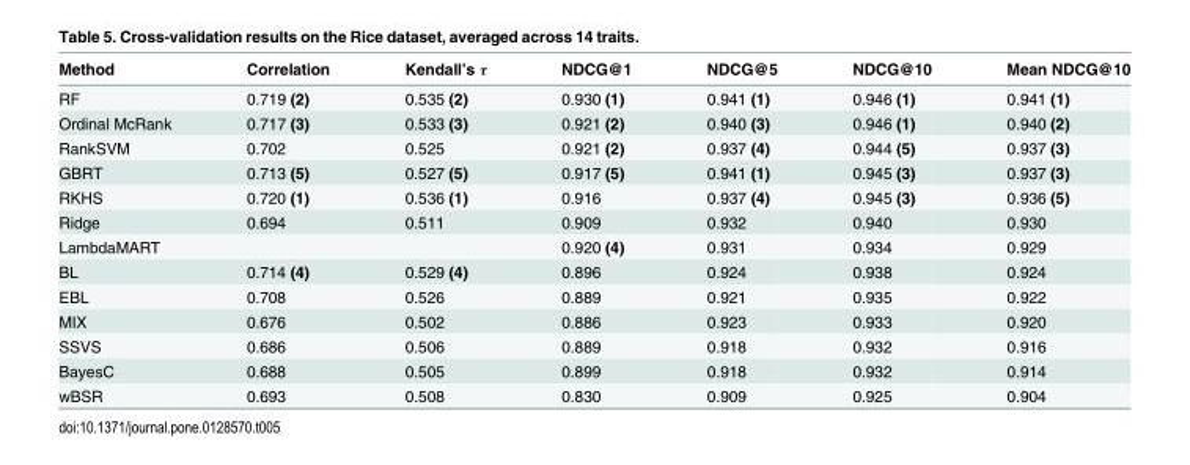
<table><thead><tr><td>Method</td><td>Correlation</td><td>Kendall’s τ</td><td>NDCG@1</td><td>NDCG@5</td><td>NDCG@10</td><td>Mean NDCG@10</td></tr></thead><tbody><tr><td>RF</td><td>0.719 (2)</td><td>0.535 (2)</td><td>0.930 (1)</td><td>0.941 (1)</td><td>0.946 (1)</td><td>0.941 (1)</td></tr><tr><td>Ordinal McRank</td><td>0.717 (3)</td><td>0.533 (3)</td><td>0.921 (2)</td><td>0.940 (3)</td><td>0.946 (1)</td><td>0.940 (2)</td></tr><tr><td>RankSVM</td><td>0.702</td><td>0.525</td><td>0.921 (2)</td><td>0.937 (4)</td><td>0.944 (5)</td><td>0.937 (3)</td></tr><tr><td>GBRT</td><td>0.713 (5)</td><td>0.527 (5)</td><td>0.917 (5)</td><td>0.941 (1)</td><td>0.945 (3)</td><td>0.937 (3)</td></tr><tr><td>RKHS</td><td>0.720 (1)</td><td>0.536 (1)</td><td>0.916</td><td>0.937 (4)</td><td>0.945 (3)</td><td>0.936 (5)</td></tr><tr><td>Ridge</td><td>0.694</td><td>0.511</td><td>0.909</td><td>0.932</td><td>0.940</td><td>0.930</td></tr><tr><td>LambdaMART</td><td></td><td></td><td>0.920 (4)</td><td>0.931</td><td>0.934</td><td>0.929</td></tr><tr><td>BL</td><td>0.714 (4)</td><td>0.529 (4)</td><td>0.896</td><td>0.924</td><td>0.938</td><td>0.924</td></tr><tr><td>EBL</td><td>0.708</td><td>0.526</td><td>0.889</td><td>0.921</td><td>0.935</td><td>0.922</td></tr><tr><td>MIX</td><td>0.676</td><td>0.502</td><td>0.886</td><td>0.923</td><td>0.933</td><td>0.920</td></tr><tr><td>SSVS</td><td>0.686</td><td>0.506</td><td>0.889</td><td>0.918</td><td>0.932</td><td>0.916</td></tr><tr><td>BayesC</td><td>0.688</td><td>0.505</td><td>0.899</td><td>0.918</td><td>0.932</td><td>0.914</td></tr><tr><td>wBSR</td><td>0.693</td><td>0.508</td><td>0.830</td><td>0.909</td><td>0.925</td><td>0.904</td></tr></tbody></table>